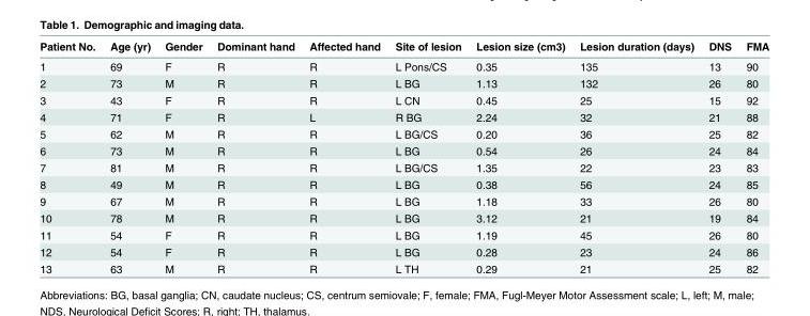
<table><thead><tr><td>Patient No.</td><td>Age (yr)</td><td>Gender</td><td>Dominant hand</td><td>Affected hand</td><td>Site of lesion</td><td>Lesion size (cm3)</td><td>Lesion duration (days)</td><td>DNS</td><td>FMA</td></tr></thead><tbody><tr><td>1</td><td>69</td><td>F</td><td>R</td><td>R</td><td>L Pons/CS</td><td>0.35</td><td>135</td><td>13</td><td>90</td></tr><tr><td>2</td><td>73</td><td>M</td><td>R</td><td>R</td><td>L BG</td><td>1.13</td><td>132</td><td>26</td><td>80</td></tr><tr><td>3</td><td>43</td><td>F</td><td>R</td><td>R</td><td>L CN</td><td>0.45</td><td>25</td><td>15</td><td>92</td></tr><tr><td>4</td><td>71</td><td>F</td><td>R</td><td>L</td><td>R BG</td><td>2.24</td><td>32</td><td>21</td><td>88</td></tr><tr><td>5</td><td>62</td><td>M</td><td>R</td><td>R</td><td>L BG/CS</td><td>0.20</td><td>36</td><td>25</td><td>82</td></tr><tr><td>6</td><td>73</td><td>M</td><td>R</td><td>R</td><td>L BG</td><td>0.54</td><td>26</td><td>24</td><td>84</td></tr><tr><td>7</td><td>81</td><td>M</td><td>R</td><td>R</td><td>L BG/CS</td><td>1.35</td><td>22</td><td>23</td><td>83</td></tr><tr><td>8</td><td>49</td><td>M</td><td>R</td><td>R</td><td>L BG</td><td>0.38</td><td>56</td><td>24</td><td>85</td></tr><tr><td>9</td><td>67</td><td>M</td><td>R</td><td>R</td><td>L BG</td><td>1.18</td><td>33</td><td>26</td><td>80</td></tr><tr><td>10</td><td>78</td><td>M</td><td>R</td><td>R</td><td>L BG</td><td>3.12</td><td>21</td><td>19</td><td>84</td></tr><tr><td>11</td><td>54</td><td>F</td><td>R</td><td>R</td><td>L BG</td><td>1.19</td><td>45</td><td>26</td><td>80</td></tr><tr><td>12</td><td>54</td><td>F</td><td>R</td><td>R</td><td>L BG</td><td>0.28</td><td>23</td><td>24</td><td>86</td></tr><tr><td>13</td><td>63</td><td>M</td><td>R</td><td>R</td><td>L TH</td><td>0.29</td><td>21</td><td>25</td><td>82</td></tr></tbody></table>